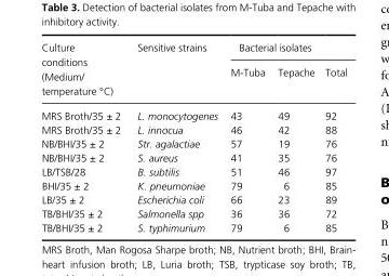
<table><thead><tr><td rowspan="2">Culture conditions (Medium/ temperature °C)</td><td rowspan="2">Sensitive strains</td><td colspan="3">Bacterial isolates</td></tr><tr><td>M- Tuba</td><td>Tepache</td><td>Total</td></tr></thead><tbody><tr><td>MRS Broth/35 ± 2</td><td>L. monocytogenes</td><td>43</td><td>49</td><td>92</td></tr><tr><td>MRS Broth/35 ± 2</td><td>L. innocua</td><td>46</td><td>42</td><td>88</td></tr><tr><td>NB/BHI/35 ± 2</td><td>Str. agalactiae</td><td>57</td><td>19</td><td>76</td></tr><tr><td>NB/BHI/35 ± 2</td><td>S. aureus</td><td>41</td><td>35</td><td>76</td></tr><tr><td>LB/TSB/28</td><td>B. subtilis</td><td>51</td><td>46</td><td>97</td></tr><tr><td>BHI/35 ± 2</td><td>K. pneumoniae</td><td>79</td><td>6</td><td>85</td></tr><tr><td>LB/35 ± 2</td><td>Escherichia coli</td><td>66</td><td>23</td><td>89</td></tr><tr><td>TB/BHI/35 ± 2</td><td>Salmonella spp</td><td>36</td><td>36</td><td>72</td></tr><tr><td>TB/BHI/35 ± 2</td><td>S. typhimurium</td><td>79</td><td>6</td><td>85</td></tr></tbody></table>